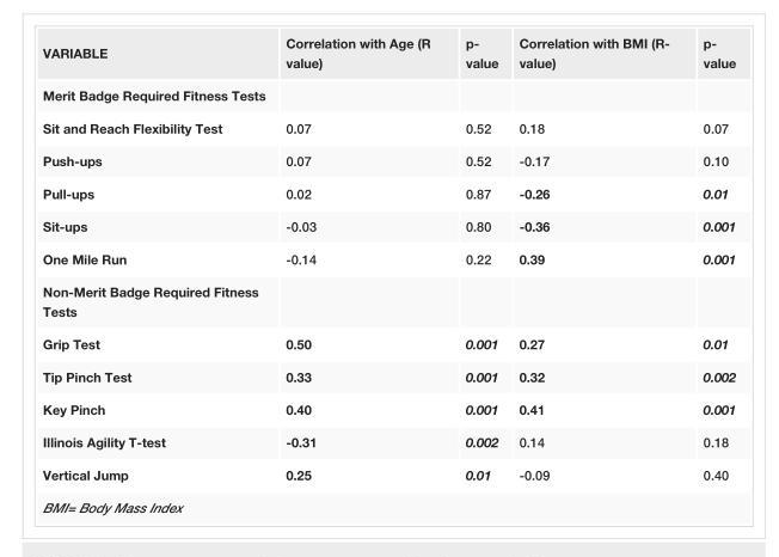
<table><tbody><tr><td>VARIABLE</td><td>Correlation with Age (R value)</td><td>p- value</td><td>Correlation with BMI (R- value)</td><td>p- value</td></tr><tr><td colspan="5">Merit Badge Required Fitness Tests</td></tr><tr><td>Sit and Reach Flexibility Test</td><td>0.07</td><td>0.52</td><td>0.18</td><td>0.07</td></tr><tr><td>Push-ups</td><td>0.07</td><td>0.52</td><td>-0.17</td><td>0.10</td></tr><tr><td>Pull-ups</td><td>0.02</td><td>0.87</td><td>-0.26</td><td>0.01</td></tr><tr><td>Sit-ups</td><td>-0.03</td><td>0.80</td><td>-0.36</td><td>0.001</td></tr><tr><td>One Mile Run</td><td>-0.14</td><td>0.22</td><td>0.39</td><td>0.001</td></tr><tr><td colspan="5">Non-Merit Badge Required Fitness Tests</td></tr><tr><td>Grip Test</td><td>0.50</td><td>0.001</td><td>0.27</td><td>0.01</td></tr><tr><td>Tip Pinch Test</td><td>0.33</td><td>0.001</td><td>0.32</td><td>0.002</td></tr><tr><td>Key Pinch</td><td>0.40</td><td>0.001</td><td>0.41</td><td>0.001</td></tr><tr><td>Illinois Agility T-test</td><td>-0.31</td><td>0.002</td><td>0.14</td><td>0.18</td></tr><tr><td>Vertical Jump</td><td>0.25</td><td>0.01</td><td>-0.09</td><td>0.40</td></tr><tr><td colspan="5">BMI= Body Mass Index</td></tr></tbody></table>